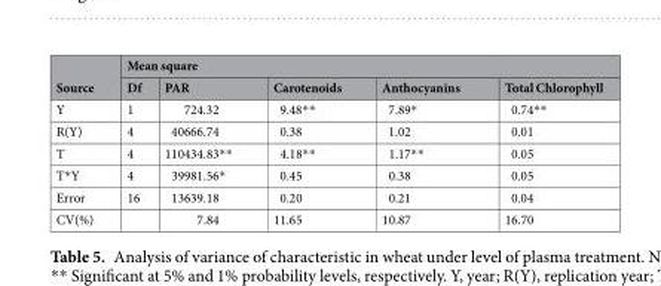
<table><thead><tr><td rowspan="2">Source</td><td colspan="5">Mean square</td></tr><tr><td>Df</td><td>PAR</td><td>Carotenoids</td><td>Anthocyanins</td><td>Total Chlorophyll</td></tr></thead><tbody><tr><td>Y</td><td>1</td><td>724.32</td><td>9.48**</td><td>7.89*</td><td>0.74**</td></tr><tr><td>R(Y)</td><td>4</td><td>40666.74</td><td>0.38</td><td>1.02</td><td>0.01</td></tr><tr><td>T</td><td>4</td><td>110434.83**</td><td>4.18**</td><td>1.17**</td><td>0.05</td></tr><tr><td>T*Y</td><td>4</td><td>39981.56*</td><td>0.45</td><td>0.38</td><td>0.05</td></tr><tr><td>Error</td><td>16</td><td>13639.18</td><td>0.20</td><td>0.21</td><td>0.04</td></tr><tr><td>CV(%)</td><td></td><td>7.84</td><td>11.65</td><td>10.87</td><td>16.70</td></tr></tbody></table>